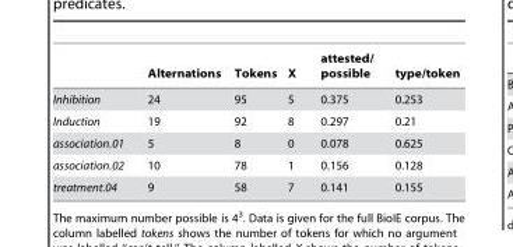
<table><thead><tr><td></td><td>Alternations</td><td>Tokens</td><td>X</td><td>attested/ possible</td><td>type/token</td></tr></thead><tbody><tr><td>Inhibition</td><td>24</td><td>95</td><td>5</td><td>0.375</td><td>0.253</td></tr><tr><td>Induction</td><td>19</td><td>92</td><td>8</td><td>0.297</td><td>0.21</td></tr><tr><td>association.01</td><td>5</td><td>8</td><td>0</td><td>0.078</td><td>0.625</td></tr><tr><td>association.02</td><td>10</td><td>78</td><td>1</td><td>0.156</td><td>0.128</td></tr><tr><td>treatment.04</td><td>9</td><td>58</td><td>7</td><td>0.141</td><td>0.155</td></tr></tbody></table>